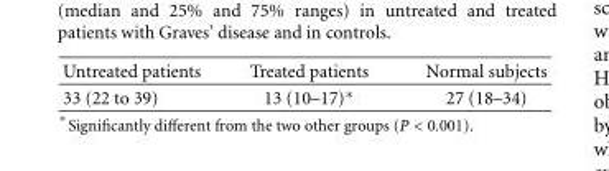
<table><thead><tr><td>Untreated patients</td><td>Treated patients</td><td>Normal subjects</td></tr></thead><tbody><tr><td>33 (22 to 39)</td><td>13 (10–17)∗</td><td>27 (18–34)</td></tr></tbody></table>